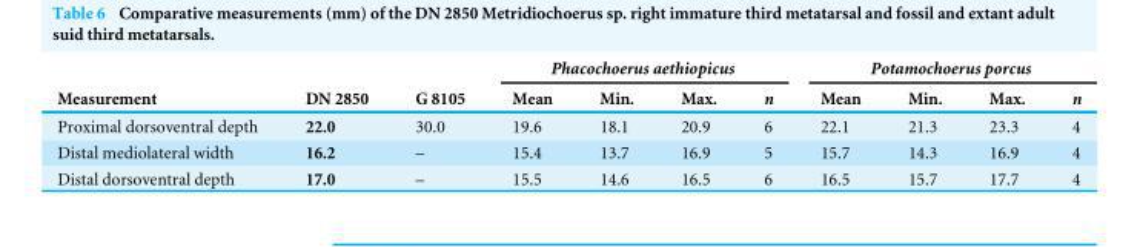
<table><thead><tr><td rowspan="2">Measurement</td><td rowspan="2">DN 2850</td><td rowspan="2">G 8105</td><td colspan="4">Phacochoerus aethiopicus</td><td colspan="4">Potamochoerus porcus</td></tr><tr><td>Mean</td><td>Min.</td><td>Max.</td><td>n</td><td>Mean</td><td>Min.</td><td>Max.</td><td>n</td></tr></thead><tbody><tr><td>Proximal dorsoventral depth</td><td>22.0</td><td>30.0</td><td>19.6</td><td>18.1</td><td>20.9</td><td>6</td><td>22.1</td><td>21.3</td><td>23.3</td><td>4</td></tr><tr><td>Distal mediolateral width</td><td>16.2</td><td>–</td><td>15.4</td><td>13.7</td><td>16.9</td><td>5</td><td>15.7</td><td>14.3</td><td>16.9</td><td>4</td></tr><tr><td>Distal dorsoventral depth</td><td>17.0</td><td>–</td><td>15.5</td><td>14.6</td><td>16.5</td><td>6</td><td>16.5</td><td>15.7</td><td>17.7</td><td>4</td></tr></tbody></table>